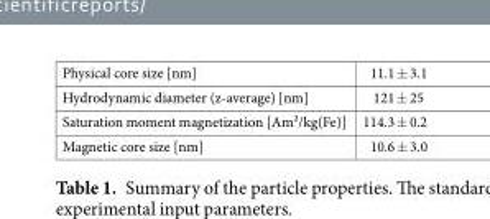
<table><tbody><tr><td>Physical core size [nm]</td><td>11.1 ± 3.1</td></tr><tr><td>Hydrodynamic diameter (z-average) [nm]</td><td>121 ± 25</td></tr><tr><td>Saturation moment magnetization [Am²/kg(Fe)]</td><td>114.3 ± 0.2</td></tr><tr><td>Magnetic core size [nm]</td><td>10.6 ± 3.0</td></tr></tbody></table>